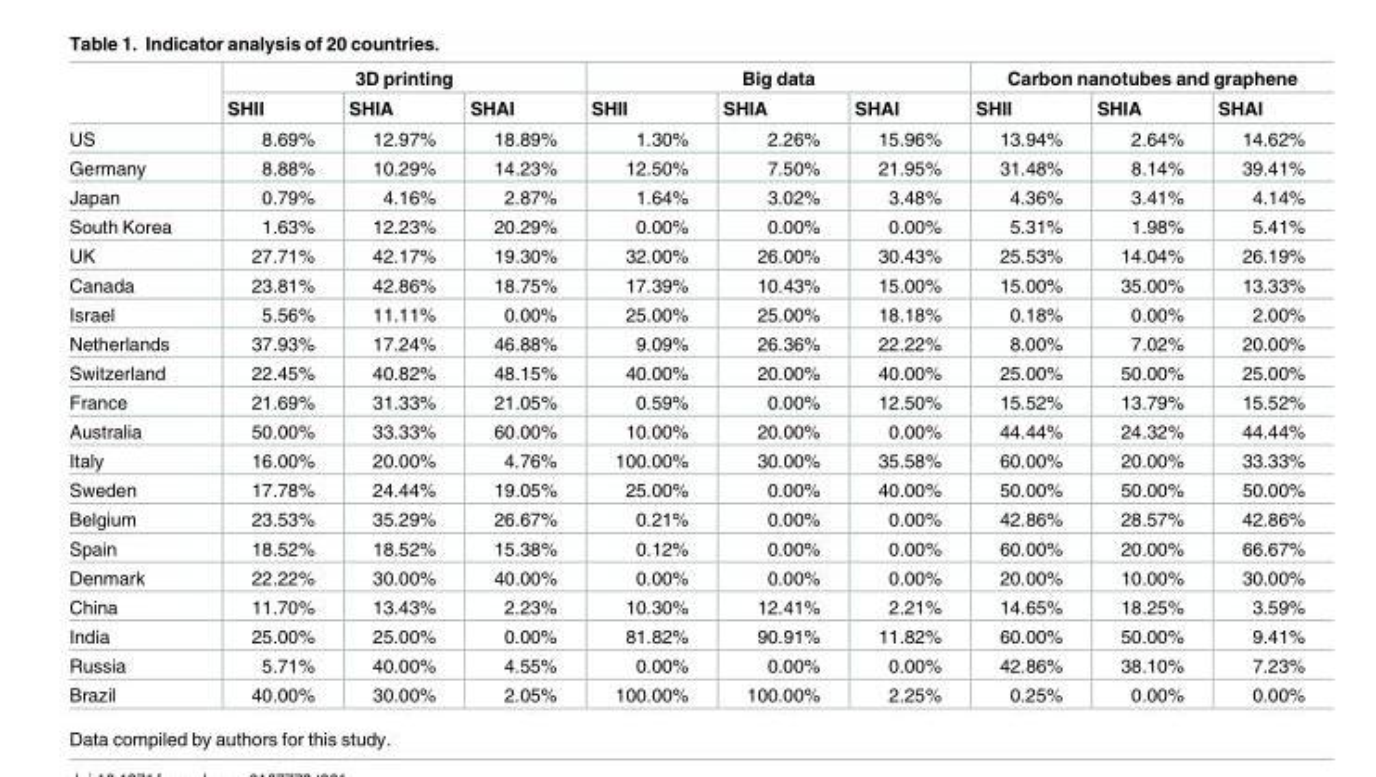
<table><thead><tr><td rowspan="2"></td><td colspan="3">3D printing</td><td colspan="3">Big data</td><td colspan="3">Carbon nanotubes and graphene</td></tr><tr><td>SHII</td><td>SHIA</td><td>SHAI</td><td>SHII</td><td>SHIA</td><td>SHAI</td><td>SHII</td><td>SHIA</td><td>SHAI</td></tr></thead><tbody><tr><td>US</td><td>8.69%</td><td>12.97%</td><td>18.89%</td><td>1.30%</td><td>2.26%</td><td>15.96%</td><td>13.94%</td><td>2.64%</td><td>14.62%</td></tr><tr><td>Germany</td><td>8.88%</td><td>10.29%</td><td>14.23%</td><td>12.50%</td><td>7.50%</td><td>21.95%</td><td>31.48%</td><td>8.14%</td><td>39.41%</td></tr><tr><td>Japan</td><td>0.79%</td><td>4.16%</td><td>2.87%</td><td>1.64%</td><td>3.02%</td><td>3.48%</td><td>4.36%</td><td>3.41%</td><td>4.14%</td></tr><tr><td>South Korea</td><td>1.63%</td><td>12.23%</td><td>20.29%</td><td>0.00%</td><td>0.00%</td><td>0.00%</td><td>5.31%</td><td>1.98%</td><td>5.41%</td></tr><tr><td>UK</td><td>27.71%</td><td>42.17%</td><td>19.30%</td><td>32.00%</td><td>26.00%</td><td>30.43%</td><td>25.53%</td><td>14.04%</td><td>26.19%</td></tr><tr><td>Canada</td><td>23.81%</td><td>42.86%</td><td>18.75%</td><td>17.39%</td><td>10.43%</td><td>15.00%</td><td>15.00%</td><td>35.00%</td><td>13.33%</td></tr><tr><td>Israel</td><td>5.56%</td><td>11.11%</td><td>0.00%</td><td>25.00%</td><td>25.00%</td><td>18.18%</td><td>0.18%</td><td>0.00%</td><td>2.00%</td></tr><tr><td>Netherlands</td><td>37.93%</td><td>17.24%</td><td>46.88%</td><td>9.09%</td><td>26.36%</td><td>22.22%</td><td>8.00%</td><td>7.02%</td><td>20.00%</td></tr><tr><td>Switzerland</td><td>22.45%</td><td>40.82%</td><td>48.15%</td><td>40.00%</td><td>20.00%</td><td>40.00%</td><td>25.00%</td><td>50.00%</td><td>25.00%</td></tr><tr><td>France</td><td>21.69%</td><td>31.33%</td><td>21.05%</td><td>0.59%</td><td>0.00%</td><td>12.50%</td><td>15.52%</td><td>13.79%</td><td>15.52%</td></tr><tr><td>Australia</td><td>50.00%</td><td>33.33%</td><td>60.00%</td><td>10.00%</td><td>20.00%</td><td>0.00%</td><td>44.44%</td><td>24.32%</td><td>44.44%</td></tr><tr><td>Italy</td><td>16.00%</td><td>20.00%</td><td>4.76%</td><td>100.00%</td><td>30.00%</td><td>35.58%</td><td>60.00%</td><td>20.00%</td><td>33.33%</td></tr><tr><td>Sweden</td><td>17.78%</td><td>24.44%</td><td>19.05%</td><td>25.00%</td><td>0.00%</td><td>40.00%</td><td>50.00%</td><td>50.00%</td><td>50.00%</td></tr><tr><td>Belgium</td><td>23.53%</td><td>35.29%</td><td>26.67%</td><td>0.21%</td><td>0.00%</td><td>0.00%</td><td>42.86%</td><td>28.57%</td><td>42.86%</td></tr><tr><td>Spain</td><td>18.52%</td><td>18.52%</td><td>15.38%</td><td>0.12%</td><td>0.00%</td><td>0.00%</td><td>60.00%</td><td>20.00%</td><td>66.67%</td></tr><tr><td>Denmark</td><td>22.22%</td><td>30.00%</td><td>40.00%</td><td>0.00%</td><td>0.00%</td><td>0.00%</td><td>20.00%</td><td>10.00%</td><td>30.00%</td></tr><tr><td>China</td><td>11.70%</td><td>13.43%</td><td>2.23%</td><td>10.30%</td><td>12.41%</td><td>2.21%</td><td>14.65%</td><td>18.25%</td><td>3.59%</td></tr><tr><td>India</td><td>25.00%</td><td>25.00%</td><td>0.00%</td><td>81.82%</td><td>90.91%</td><td>11.82%</td><td>60.00%</td><td>50.00%</td><td>9.41%</td></tr><tr><td>Russia</td><td>5.71%</td><td>40.00%</td><td>4.55%</td><td>0.00%</td><td>0.00%</td><td>0.00%</td><td>42.86%</td><td>38.10%</td><td>7.23%</td></tr><tr><td>Brazil</td><td>40.00%</td><td>30.00%</td><td>2.05%</td><td>100.00%</td><td>100.00%</td><td>2.25%</td><td>0.25%</td><td>0.00%</td><td>0.00%</td></tr></tbody></table>